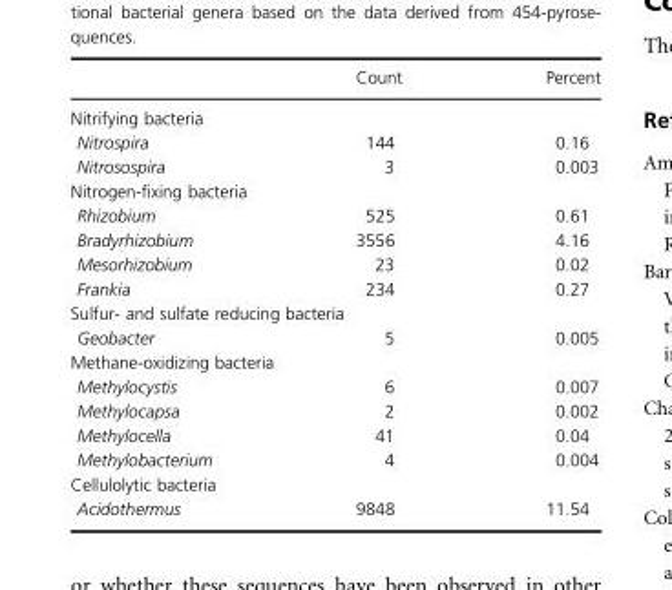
<table><thead><tr><td></td><td>Count</td><td>Percent</td></tr></thead><tbody><tr><td colspan="3">Nitrifying bacteria</td></tr><tr><td>Nitrospira</td><td>144</td><td>0.16</td></tr><tr><td>Nitrosospira</td><td>3</td><td>0.003</td></tr><tr><td colspan="3">Nitrogen-fixing bacteria</td></tr><tr><td>Rhizobium</td><td>525</td><td>0.61</td></tr><tr><td>Bradyrhizobium</td><td>3556</td><td>4.16</td></tr><tr><td>Mesorhizobium</td><td>23</td><td>0.02</td></tr><tr><td>Frankia</td><td>234</td><td>0.27</td></tr><tr><td colspan="3">Sulfur- and sulfate reducing bacteria</td></tr><tr><td>Geobacter</td><td>5</td><td>0.005</td></tr><tr><td colspan="3">Methane-oxidizing bacteria</td></tr><tr><td>Methylocystis</td><td>6</td><td>0.007</td></tr><tr><td>Methylocapsa</td><td>2</td><td>0.002</td></tr><tr><td>Methylocella</td><td>41</td><td>0.04</td></tr><tr><td>Methylobacterium</td><td>4</td><td>0.004</td></tr><tr><td colspan="3">Cellulolytic bacteria</td></tr><tr><td>Acidothermus</td><td>9848</td><td>11.54</td></tr></tbody></table>